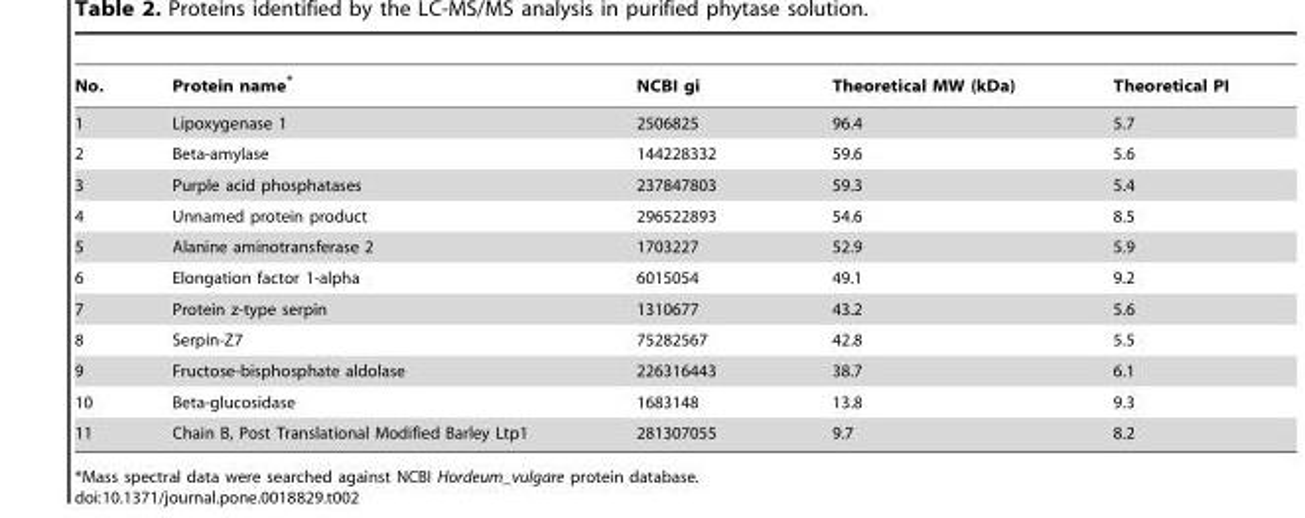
<table><thead><tr><td>No.</td><td>Protein name*</td><td>NCBI gi</td><td>Theoretical MW (kDa)</td><td>Theoretical PI</td></tr></thead><tbody><tr><td>1</td><td>Lipoxygenase 1</td><td>2506825</td><td>96.4</td><td>5.7</td></tr><tr><td>2</td><td>Beta-amylase</td><td>144228332</td><td>59.6</td><td>5.6</td></tr><tr><td>3</td><td>Purple acid phosphatases</td><td>237847803</td><td>59.3</td><td>5.4</td></tr><tr><td>4</td><td>Unnamed protein product</td><td>296522893</td><td>54.6</td><td>8.5</td></tr><tr><td>5</td><td>Alanine aminotransferase 2</td><td>1703227</td><td>52.9</td><td>5.9</td></tr><tr><td>6</td><td>Elongation factor 1-alpha</td><td>6015054</td><td>49.1</td><td>9.2</td></tr><tr><td>7</td><td>Protein z-type serpin</td><td>1310677</td><td>43.2</td><td>5.6</td></tr><tr><td>8</td><td>Serpin-Z7</td><td>75282567</td><td>42.8</td><td>5.5</td></tr><tr><td>9</td><td>Fructose-bisphosphate aldolase</td><td>226316443</td><td>38.7</td><td>6.1</td></tr><tr><td>10</td><td>Beta-glucosidase</td><td>1683148</td><td>13.8</td><td>9.3</td></tr><tr><td>11</td><td>Chain B, Post Translational Modified Barley Ltp1</td><td>281307055</td><td>9.7</td><td>8.2</td></tr></tbody></table>